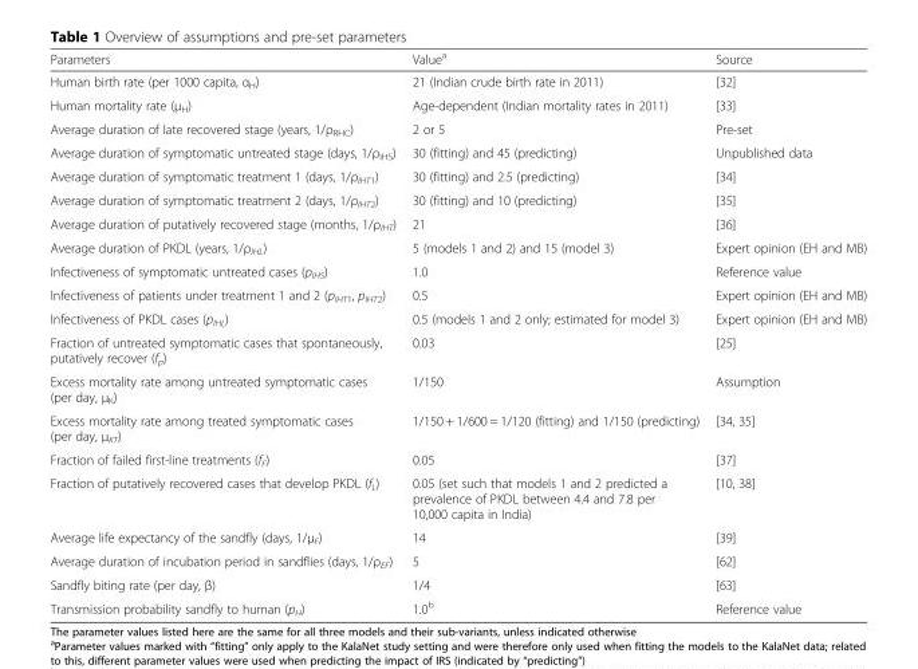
<table><thead><tr><td>Parameters</td><td>Value<sup>a</sup></td><td>Source</td></tr></thead><tbody><tr><td>Human birth rate (per 1000 capita, α<sub>H</sub>)</td><td>21 (Indian crude birth rate in 2011)</td><td>[32]</td></tr><tr><td>Human mortality rate (μ<sub>H</sub>)</td><td>Age-dependent (Indian mortality rates in 2011)</td><td>[33]</td></tr><tr><td>Average duration of late recovered stage (years, 1/ρ<sub>RHC</sub>)</td><td>2 or 5</td><td>Pre-set</td></tr><tr><td>Average duration of symptomatic untreated stage (days, 1/ρ<sub>IHS</sub>)</td><td>30 (fitting) and 45 (predicting)</td><td>Unpublished data</td></tr><tr><td>Average duration of symptomatic treatment 1 (days, 1/ρ<sub>IHT1</sub>)</td><td>30 (fitting) and 2.5 (predicting)</td><td>[34]</td></tr><tr><td>Average duration of symptomatic treatment 2 (days, 1/ρ<sub>IHT2</sub>)</td><td>30 (fitting) and 10 (predicting)</td><td>[35]</td></tr><tr><td>Average duration of putatively recovered stage (months, 1/ρ<sub>IHT</sub>)</td><td>21</td><td>[36]</td></tr><tr><td>Average duration of PKDL (years, 1/ρ<sub>IHL</sub>)</td><td>5 (models 1 and 2) and 15 (model 3)</td><td>Expert opinion (EH and MB)</td></tr><tr><td>Infectiveness of symptomatic untreated cases (p<sub>IHS</sub>)</td><td>1.0</td><td>Reference value</td></tr><tr><td>Infectiveness of patients under treatment 1 and 2 (p<sub>IHT1</sub>, p<sub>IHT2</sub>)</td><td>0.5</td><td>Expert opinion (EH and MB)</td></tr><tr><td>Infectiveness of PKDL cases (p<sub>IHL</sub>)</td><td>0.5 (models 1 and 2 only; estimated for model 3)</td><td>Expert opinion (EH and MB)</td></tr><tr><td>Fraction of untreated symptomatic cases that spontaneously, putatively recover (f<sub>p</sub>)</td><td>0.03</td><td>[25]</td></tr><tr><td>Excess mortality rate among untreated symptomatic cases (per day, μ<sub>K</sub>)</td><td>1/150</td><td>Assumption</td></tr><tr><td>Excess mortality rate among treated symptomatic cases (per day, μ<sub>KT</sub>)</td><td>1/150 + 1/600 = 1/120 (fitting) and 1/150 (predicting)</td><td>[34, 35]</td></tr><tr><td>Fraction of failed first-line treatments (f<sub>F</sub>)</td><td>0.05</td><td>[37]</td></tr><tr><td>Fraction of putatively recovered cases that develop PKDL (f<sub>L</sub>)</td><td>0.05 (set such that models 1 and 2 predicted a prevalence of PKDL between 4.4 and 7.8 per 10,000 capita in India)</td><td>[10, 38]</td></tr><tr><td>Average life expectancy of the sandfly (days, 1/μ<sub>F</sub>)</td><td>14</td><td>[39]</td></tr><tr><td>Average duration of incubation period in sandflies (days, 1/ρ<sub>EF</sub>)</td><td>5</td><td>[62]</td></tr><tr><td>Sandfly biting rate (per day, β)</td><td>1/4</td><td>[63]</td></tr><tr><td>Transmission probability sandfly to human (p<sub>H</sub>)</td><td>1.0<sup>b</sup></td><td>Reference value</td></tr></tbody></table>